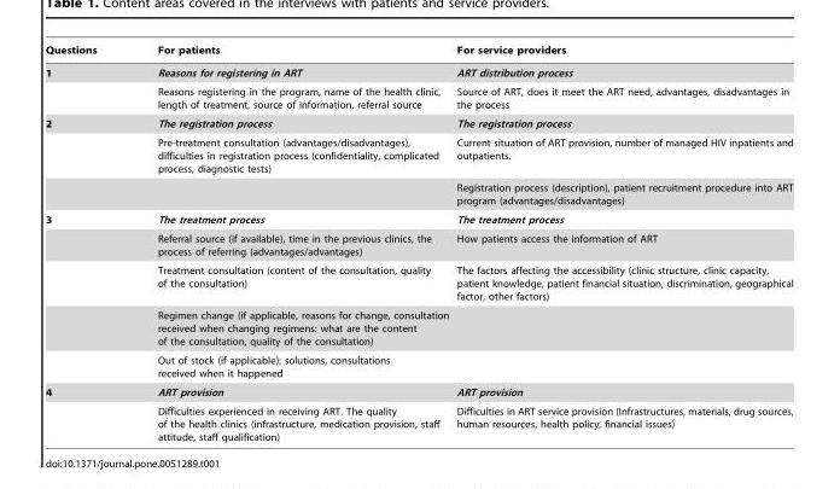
<table><thead><tr><td>Questions</td><td>For patients</td><td>For service providers</td></tr></thead><tbody><tr><td rowspan="2">1</td><td>Reasons for registering in ART</td><td>ART distribution process</td></tr><tr><td>Reasons registering in the program, name of the health clinic, length of treatment, source of information, referral source</td><td>Source of ART, does it meet the ART need, advantages, disadvantages in the process</td></tr><tr><td rowspan="3">2</td><td>The registration process</td><td>The registration process</td></tr><tr><td>Pre-treatment consultation (advantages/disadvantages), difficulties in registration process (confidentiality, complicated process, diagnostic tests)</td><td>Current situation of ART provision, number of managed HIV inpatients and outpatients.</td></tr><tr><td></td><td>Registration process (description), patient recruitment procedure into ART program (advantages/disadvantages)</td></tr><tr><td rowspan="5">3</td><td>The treatment process</td><td>The treatment process</td></tr><tr><td>Referral source (if available), time in the previous clinics, the process of referring (advantages/advantages)</td><td>How patients access the information of ART</td></tr><tr><td>Treatment consultation (content of the consultation, quality of the consultation)</td><td>The factors affecting the accessibility (clinic structure, clinic capacity, patient knowledge, patient financial situation, discrimination, geographical factor, other factors)</td></tr><tr><td>Regimen change (if applicable, reasons for change, consultation received when changing regimens: what are the content of the consultation, quality of the consultation)</td><td></td></tr><tr><td>Out of stock (if applicable): solutions, consultations received when it happened</td><td></td></tr><tr><td rowspan="2">4</td><td>ART provision</td><td>ART provision</td></tr><tr><td>Difficulties experienced in receiving ART. The quality of the health clinics (infrastructure, medication provision, staff attitude, staff qualification)</td><td>Difficulties in ART service provision (Infrastructures, materials, drug sources, human resources, health policy, financial issues)</td></tr></tbody></table>